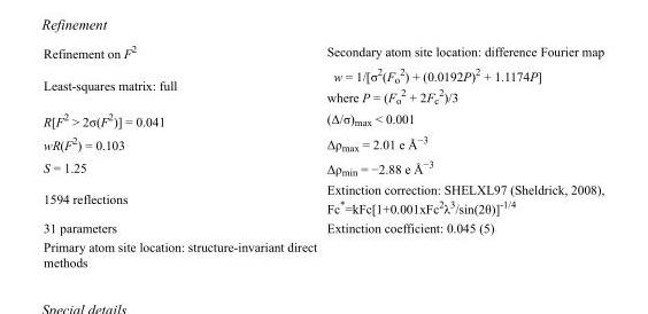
<table><tbody><tr><td>Refinement on F<sup>2</sup></td><td>Secondary atom site location: difference Fourier map</td></tr><tr><td>Least-squares matrix: full</td><td>w = 1/[σ<sup>2</sup>(F<sub>o</sub> <sup>2</sup>) + (0.0192P)<sup>2</sup> + 1.1174P] where P = (F<sub>o</sub> <sup>2</sup> + 2F<sub>c</sub> <sup>2</sup>)/3</td></tr><tr><td>R[F<sup>2</sup> &gt; 2σ(F<sup>2</sup>)] = 0.041</td><td>(Δ/σ)<sub>max</sub> &lt; 0.001</td></tr><tr><td>wR(F<sup>2</sup>) = 0.103</td><td>Δρ<sub>max</sub> = 2.01 e Å<sup>−3</sup></td></tr><tr><td>S = 1.25</td><td>Δρ<sub>min</sub> = −2.88 e Å<sup>−3</sup></td></tr><tr><td>1594 reflections</td><td>Extinction correction: SHELXL97 (Sheldrick, 2008), Fc*=kFc[1+0.001xFc<sup>2</sup>λ<sup>3</sup>/sin(2θ)]<sup>-1/4</sup></td></tr><tr><td>31 parameters</td><td>Extinction coefficient: 0.045 (5)</td></tr><tr><td>Primary atom site location: structure-invariant direct methods</td><td></td></tr></tbody></table>